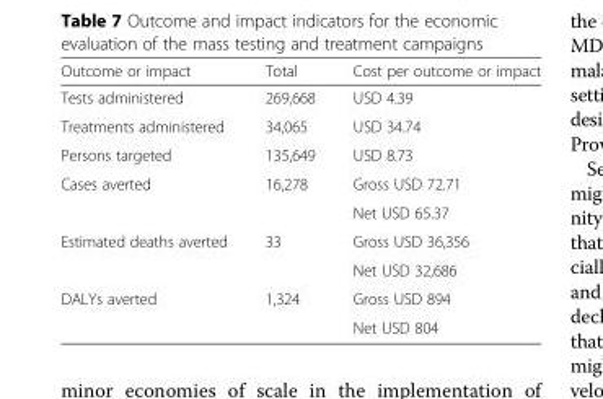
<table><thead><tr><td>Outcome or impact</td><td>Total</td><td>Cost per outcome or impact</td></tr></thead><tbody><tr><td>Tests administered</td><td>269,668</td><td>USD 4.39</td></tr><tr><td>Treatments administered</td><td>34,065</td><td>USD 34.74</td></tr><tr><td>Persons targeted</td><td>135,649</td><td>USD 8.73</td></tr><tr><td rowspan="2">Cases averted</td><td rowspan="2">16,278</td><td>Gross USD 72.71</td></tr><tr><td>Net USD 65.37</td></tr><tr><td rowspan="2">Estimated deaths averted</td><td rowspan="2">33</td><td>Gross USD 36,356</td></tr><tr><td>Net USD 32,686</td></tr><tr><td rowspan="2">DALYs averted</td><td rowspan="2">1,324</td><td>Gross USD 894</td></tr><tr><td>Net USD 804</td></tr></tbody></table>